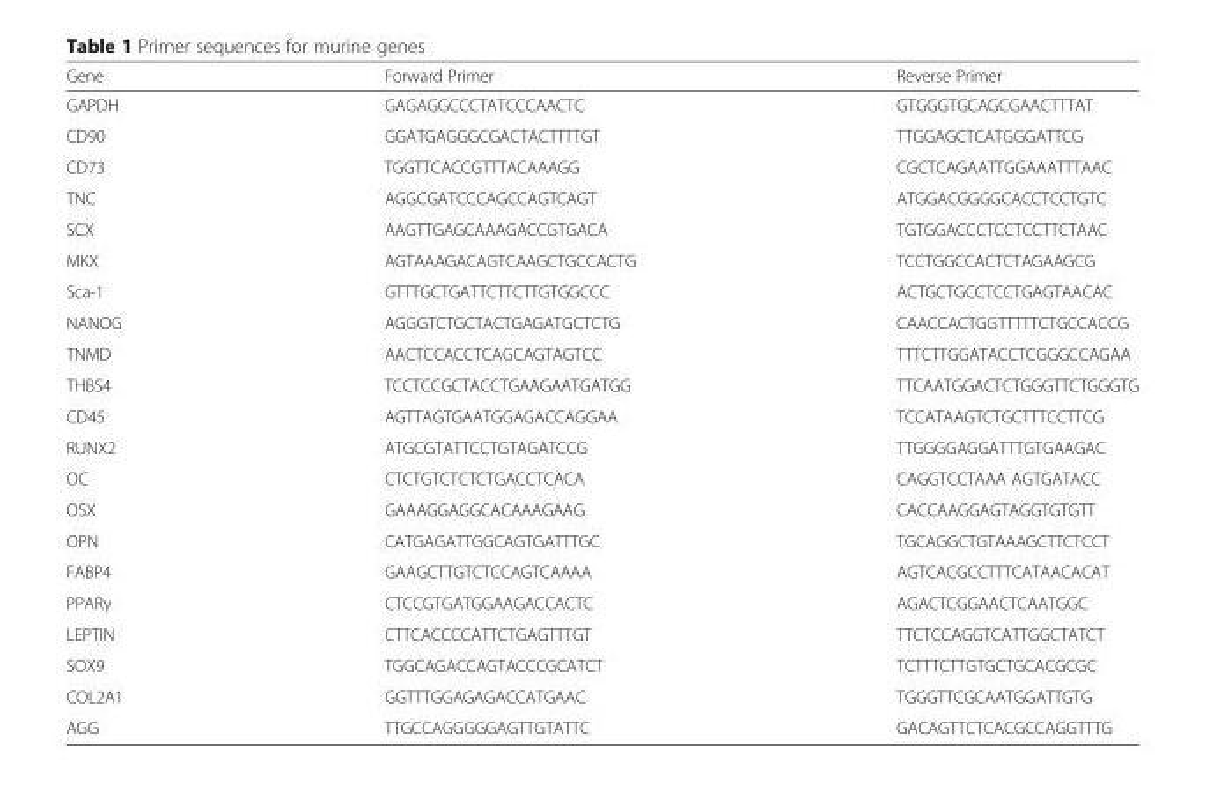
<table><thead><tr><td>Gene</td><td>Forward Primer</td><td>Reverse Primer</td></tr></thead><tbody><tr><td>GAPDH</td><td>GAGAGGCCCTATCCCAACTC</td><td>GTGGGTGCAGCGAACTTTAT</td></tr><tr><td>CD90</td><td>GGATGAGGGCGACTACTTTTGT</td><td>TTGGAGCTCATGGGATTCG</td></tr><tr><td>CD73</td><td>TGGTTCACCGTTTACAAAGG</td><td>CGCTCAGAATTGGAAATTTAAC</td></tr><tr><td>TNC</td><td>AGGCGATCCCAGCCAGTCAGT</td><td>ATGGACGGGGCACCTCCTGTC</td></tr><tr><td>SCX</td><td>AAGTTGAGCAAAGACCGTGACA</td><td>TGTGGACCCTCCTCCTTCTAAC</td></tr><tr><td>MKX</td><td>AGTAAAGACAGTCAAGCTGCCACTG</td><td>TCCTGGCCACTCTAGAAGCG</td></tr><tr><td>Sca-1</td><td>GTTTGCTGATTCTTCTTGTGGCCC</td><td>ACTGCTGCCTCCTGAGTAACAC</td></tr><tr><td>NANOG</td><td>AGGGTCTGCTACTGAGATGCTCTG</td><td>CAACCACTGGTTTTTCTGCCACCG</td></tr><tr><td>TNMD</td><td>AACTCCACCTCAGCAGTAGTCC</td><td>TTTCTTGGATACCTCGGGCCAGAA</td></tr><tr><td>THBS4</td><td>TCCTCCGCTACCTGAAGAATGATGG</td><td>TTCAATGGACTCTGGGTTCTGGGTG</td></tr><tr><td>CD45</td><td>AGTTAGTGAATGGAGACCAGGAA</td><td>TCCATAAGTCTGCTTTCCTTCG</td></tr><tr><td>RUNX2</td><td>ATGCGTATTCCTGTAGATCCG</td><td>TTGGGGAGGATTTGTGAAGAC</td></tr><tr><td>OC</td><td>CTCTGTCTCTCTGACCTCACA</td><td>CAGGTCCTAAA AGTGATACC</td></tr><tr><td>OSX</td><td>GAAAGGAGGCACAAAGAAG</td><td>CACCAAGGAGTAGGTGTGTT</td></tr><tr><td>OPN</td><td>CATGAGATTGGCAGTGATTTGC</td><td>TGCAGGCTGTAAAGCTTCTCCT</td></tr><tr><td>FABP4</td><td>GAAGCTTGTCTCCAGTCAAAA</td><td>AGTCACGCCTTTCATAACACAT</td></tr><tr><td>PPARγ</td><td>CTCCGTGATGGAAGACCACTC</td><td>AGACTCGGAACTCAATGGC</td></tr><tr><td>LEPTIN</td><td>CTTCACCCCATTCTGAGTTTGT</td><td>TTCTCCAGGTCATTGGCTATCT</td></tr><tr><td>SOX9</td><td>TGGCAGACCAGTACCCGCATCT</td><td>TCTTTCTTGTGCTGCACGCGC</td></tr><tr><td>COL2A1</td><td>GGTTTGGAGAGACCATGAAC</td><td>TGGGTTCGCAATGGATTGTG</td></tr><tr><td>AGG</td><td>TTGCCAGGGGGAGTTGTATTC</td><td>GACAGTTCTCACGCCAGGTTTG</td></tr></tbody></table>